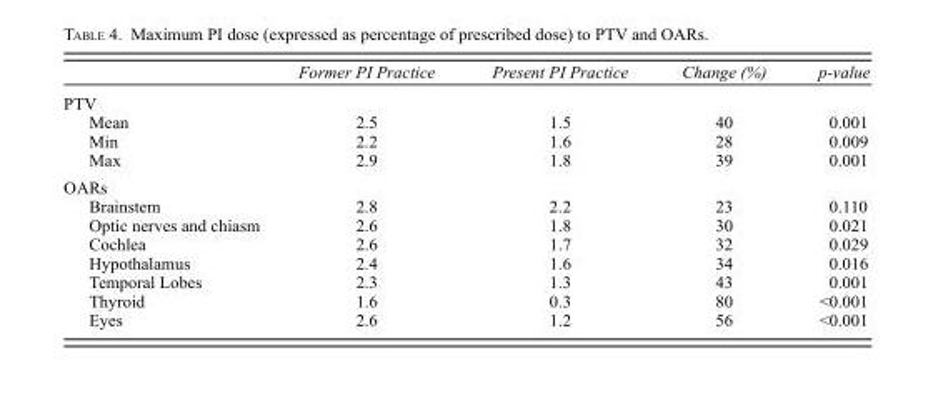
<table><thead><tr><td></td><td>Former PI Practice</td><td>Present PI Practice</td><td>Change (%)</td><td>p-value</td></tr></thead><tbody><tr><td colspan="5">PTV</td></tr><tr><td>Mean</td><td>2.5</td><td>1.5</td><td>40</td><td>0.001</td></tr><tr><td>Min</td><td>2.2</td><td>1.6</td><td>28</td><td>0.009</td></tr><tr><td>Max</td><td>2.9</td><td>1.8</td><td>39</td><td>0.001</td></tr><tr><td colspan="5">OARs</td></tr><tr><td>Brainstem</td><td>2.8</td><td>2.2</td><td>23</td><td>0.110</td></tr><tr><td>Optic nerves and chiasm</td><td>2.6</td><td>1.8</td><td>30</td><td>0.021</td></tr><tr><td>Cochlea</td><td>2.6</td><td>1.7</td><td>32</td><td>0.029</td></tr><tr><td>Hypothalamus</td><td>2.4</td><td>1.6</td><td>34</td><td>0.016</td></tr><tr><td>Temporal Lobes</td><td>2.3</td><td>1.3</td><td>43</td><td>0.001</td></tr><tr><td>Thyroid</td><td>1.6</td><td>0.3</td><td>80</td><td>&lt;0.001</td></tr><tr><td>Eyes</td><td>2.6</td><td>1.2</td><td>56</td><td>&lt;0.001</td></tr></tbody></table>